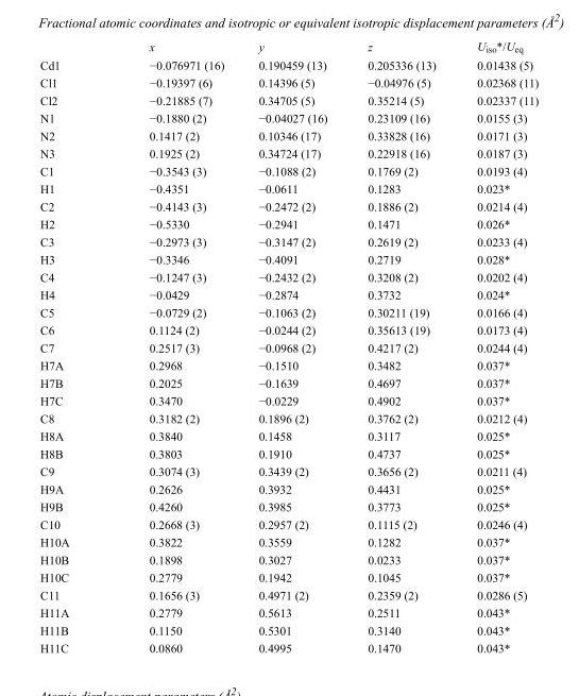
<table><thead><tr><td></td><td>x</td><td>y</td><td>z</td><td>U<sub>iso</sub>*/U<sub>eq</sub></td></tr></thead><tbody><tr><td>Cd1</td><td>−0.076971 (16)</td><td>0.190459 (13)</td><td>0.205336 (13)</td><td>0.01438 (5)</td></tr><tr><td>Cl1</td><td>−0.19397 (6)</td><td>0.14396 (5)</td><td>−0.04976 (5)</td><td>0.02368 (11)</td></tr><tr><td>Cl2</td><td>−0.21885 (7)</td><td>0.34705 (5)</td><td>0.35214 (5)</td><td>0.02337 (11)</td></tr><tr><td>N1</td><td>−0.1880 (2)</td><td>−0.04027 (16)</td><td>0.23109 (16)</td><td>0.0155 (3)</td></tr><tr><td>N2</td><td>0.1417 (2)</td><td>0.10346 (17)</td><td>0.33828 (16)</td><td>0.0171 (3)</td></tr><tr><td>N3</td><td>0.1925 (2)</td><td>0.34724 (17)</td><td>0.22918 (16)</td><td>0.0187 (3)</td></tr><tr><td>C1</td><td>−0.3543 (3)</td><td>−0.1088 (2)</td><td>0.1769 (2)</td><td>0.0193 (4)</td></tr><tr><td>H1</td><td>−0.4351</td><td>−0.0611</td><td>0.1283</td><td>0.023*</td></tr><tr><td>C2</td><td>−0.4143 (3)</td><td>−0.2472 (2)</td><td>0.1886 (2)</td><td>0.0214 (4)</td></tr><tr><td>H2</td><td>−0.5330</td><td>−0.2941</td><td>0.1471</td><td>0.026*</td></tr><tr><td>C3</td><td>−0.2973 (3)</td><td>−0.3147 (2)</td><td>0.2619 (2)</td><td>0.0233 (4)</td></tr><tr><td>H3</td><td>−0.3346</td><td>−0.4091</td><td>0.2719</td><td>0.028*</td></tr><tr><td>C4</td><td>−0.1247 (3)</td><td>−0.2432 (2)</td><td>0.3208 (2)</td><td>0.0202 (4)</td></tr><tr><td>H4</td><td>−0.0429</td><td>−0.2874</td><td>0.3732</td><td>0.024*</td></tr><tr><td>C5</td><td>−0.0729 (2)</td><td>−0.1063 (2)</td><td>0.30211 (19)</td><td>0.0166 (4)</td></tr><tr><td>C6</td><td>0.1124 (2)</td><td>−0.0244 (2)</td><td>0.35613 (19)</td><td>0.0173 (4)</td></tr><tr><td>C7</td><td>0.2517 (3)</td><td>−0.0968 (2)</td><td>0.4217 (2)</td><td>0.0244 (4)</td></tr><tr><td>H7A</td><td>0.2968</td><td>−0.1510</td><td>0.3482</td><td>0.037*</td></tr><tr><td>H7B</td><td>0.2025</td><td>−0.1639</td><td>0.4697</td><td>0.037*</td></tr><tr><td>H7C</td><td>0.3470</td><td>−0.0229</td><td>0.4902</td><td>0.037*</td></tr><tr><td>C8</td><td>0.3182 (2)</td><td>0.1896 (2)</td><td>0.3762 (2)</td><td>0.0212 (4)</td></tr><tr><td>H8A</td><td>0.3840</td><td>0.1458</td><td>0.3117</td><td>0.025*</td></tr><tr><td>H8B</td><td>0.3803</td><td>0.1910</td><td>0.4737</td><td>0.025*</td></tr><tr><td>C9</td><td>0.3074 (3)</td><td>0.3439 (2)</td><td>0.3656 (2)</td><td>0.0211 (4)</td></tr><tr><td>H9A</td><td>0.2626</td><td>0.3932</td><td>0.4431</td><td>0.025*</td></tr><tr><td>H9B</td><td>0.4260</td><td>0.3985</td><td>0.3773</td><td>0.025*</td></tr><tr><td>C10</td><td>0.2668 (3)</td><td>0.2957 (2)</td><td>0.1115 (2)</td><td>0.0246 (4)</td></tr><tr><td>H10A</td><td>0.3822</td><td>0.3559</td><td>0.1282</td><td>0.037*</td></tr><tr><td>H10B</td><td>0.1898</td><td>0.3027</td><td>0.0233</td><td>0.037*</td></tr><tr><td>H10C</td><td>0.2779</td><td>0.1942</td><td>0.1045</td><td>0.037*</td></tr><tr><td>C11</td><td>0.1656 (3)</td><td>0.4971 (2)</td><td>0.2359 (2)</td><td>0.0286 (5)</td></tr><tr><td>H11A</td><td>0.2779</td><td>0.5613</td><td>0.2511</td><td>0.043*</td></tr><tr><td>H11B</td><td>0.1150</td><td>0.5301</td><td>0.3140</td><td>0.043*</td></tr><tr><td>H11C</td><td>0.0860</td><td>0.4995</td><td>0.1470</td><td>0.043*</td></tr></tbody></table>